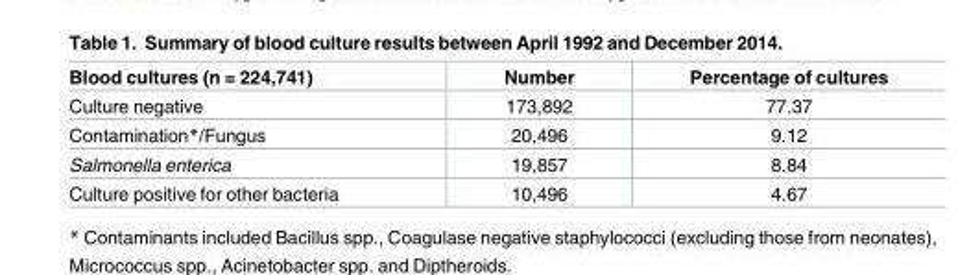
<table><thead><tr><td>Blood cultures (n = 224,741)</td><td>Number</td><td>Percentage of cultures</td></tr></thead><tbody><tr><td>Culture negative</td><td>173,892</td><td>77.37</td></tr><tr><td>Contamination*/Fungus</td><td>20,496</td><td>9.12</td></tr><tr><td>Salmonella enterica</td><td>19,857</td><td>8.84</td></tr><tr><td>Culture positive for other bacteria</td><td>10,496</td><td>4.67</td></tr></tbody></table>